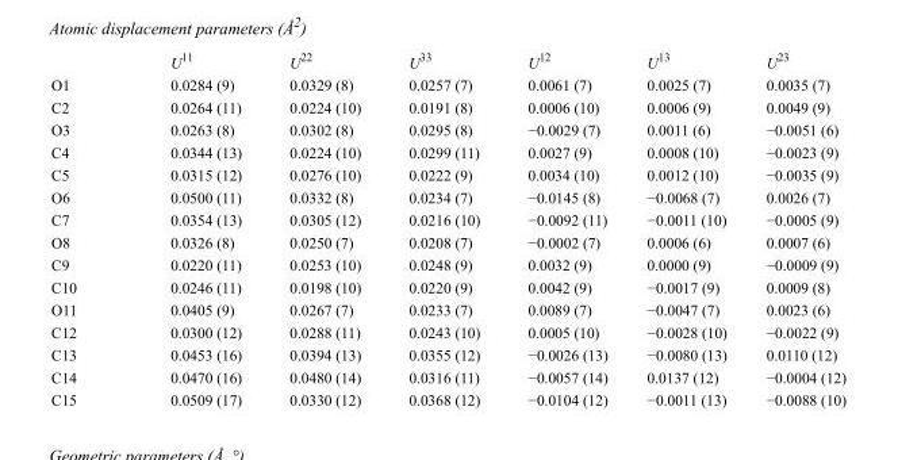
<table><thead><tr><td></td><td>U<sup>11</sup></td><td>U<sup>22</sup></td><td>U<sup>33</sup></td><td>U<sup>12</sup></td><td>U<sup>13</sup></td><td>U<sup>23</sup></td></tr></thead><tbody><tr><td>O1</td><td>0.0284 (9)</td><td>0.0329 (8)</td><td>0.0257 (7)</td><td>0.0061 (7)</td><td>0.0025 (7)</td><td>0.0035 (7)</td></tr><tr><td>C2</td><td>0.0264 (11)</td><td>0.0224 (10)</td><td>0.0191 (8)</td><td>0.0006 (10)</td><td>0.0006 (9)</td><td>0.0049 (9)</td></tr><tr><td>O3</td><td>0.0263 (8)</td><td>0.0302 (8)</td><td>0.0295 (8)</td><td>−0.0029 (7)</td><td>0.0011 (6)</td><td>−0.0051 (6)</td></tr><tr><td>C4</td><td>0.0344 (13)</td><td>0.0224 (10)</td><td>0.0299 (11)</td><td>0.0027 (9)</td><td>0.0008 (10)</td><td>−0.0023 (9)</td></tr><tr><td>C5</td><td>0.0315 (12)</td><td>0.0276 (10)</td><td>0.0222 (9)</td><td>0.0034 (10)</td><td>0.0012 (10)</td><td>−0.0035 (9)</td></tr><tr><td>O6</td><td>0.0500 (11)</td><td>0.0332 (8)</td><td>0.0234 (7)</td><td>−0.0145 (8)</td><td>−0.0068 (7)</td><td>0.0026 (7)</td></tr><tr><td>C7</td><td>0.0354 (13)</td><td>0.0305 (12)</td><td>0.0216 (10)</td><td>−0.0092 (11)</td><td>−0.0011 (10)</td><td>−0.0005 (9)</td></tr><tr><td>O8</td><td>0.0326 (8)</td><td>0.0250 (7)</td><td>0.0208 (7)</td><td>−0.0002 (7)</td><td>0.0006 (6)</td><td>0.0007 (6)</td></tr><tr><td>C9</td><td>0.0220 (11)</td><td>0.0253 (10)</td><td>0.0248 (9)</td><td>0.0032 (9)</td><td>0.0000 (9)</td><td>−0.0009 (9)</td></tr><tr><td>C10</td><td>0.0246 (11)</td><td>0.0198 (10)</td><td>0.0220 (9)</td><td>0.0042 (9)</td><td>−0.0017 (9)</td><td>0.0009 (8)</td></tr><tr><td>O11</td><td>0.0405 (9)</td><td>0.0267 (7)</td><td>0.0233 (7)</td><td>0.0089 (7)</td><td>−0.0047 (7)</td><td>0.0023 (6)</td></tr><tr><td>C12</td><td>0.0300 (12)</td><td>0.0288 (11)</td><td>0.0243 (10)</td><td>0.0005 (10)</td><td>−0.0028 (10)</td><td>−0.0022 (9)</td></tr><tr><td>C13</td><td>0.0453 (16)</td><td>0.0394 (13)</td><td>0.0355 (12)</td><td>−0.0026 (13)</td><td>−0.0080 (13)</td><td>0.0110 (12)</td></tr><tr><td>C14</td><td>0.0470 (16)</td><td>0.0480 (14)</td><td>0.0316 (11)</td><td>−0.0057 (14)</td><td>0.0137 (12)</td><td>−0.0004 (12)</td></tr><tr><td>C15</td><td>0.0509 (17)</td><td>0.0330 (12)</td><td>0.0368 (12)</td><td>−0.0104 (12)</td><td>−0.0011 (13)</td><td>−0.0088 (10)</td></tr></tbody></table>